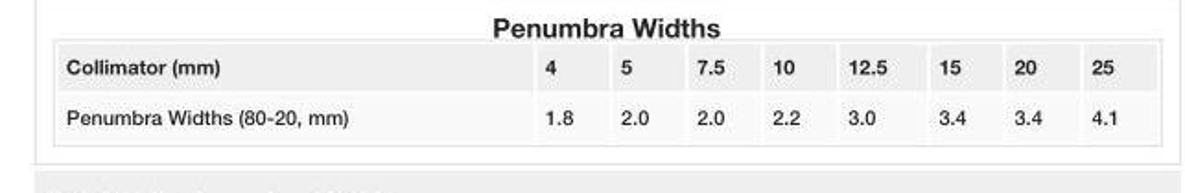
<table><tbody><tr><td>Collimator (mm)</td><td>4</td><td>5</td><td>7.5</td><td>10</td><td>12.5</td><td>15</td><td>20</td><td>25</td></tr><tr><td>Penumbra Widths (80-20, mm)</td><td>1.8</td><td>2.0</td><td>2.0</td><td>2.2</td><td>3.0</td><td>3.4</td><td>3.4</td><td>4.1</td></tr></tbody></table>